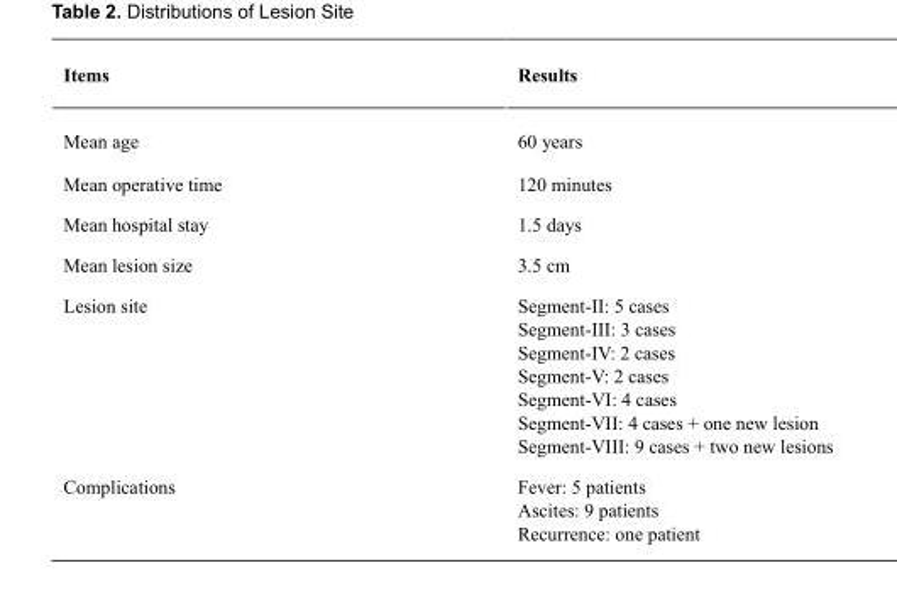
<table><thead><tr><td>Items</td><td>Results</td></tr></thead><tbody><tr><td>Mean age</td><td>60 years</td></tr><tr><td>Mean operative time</td><td>120 minutes</td></tr><tr><td>Mean hospital stay</td><td>1.5 days</td></tr><tr><td>Mean lesion size</td><td>3.5 cm</td></tr><tr><td>Lesion site</td><td>Segment-II: 5 cases Segment-III: 3 cases Segment-IV: 2 cases Segment-V: 2 cases Segment-VI: 4 cases Segment-VII: 4 cases + one new lesion Segment-VIII: 9 cases + two new lesions</td></tr><tr><td>Complications</td><td>Fever: 5 patients Ascites: 9 patients Recurrence: one patient</td></tr></tbody></table>